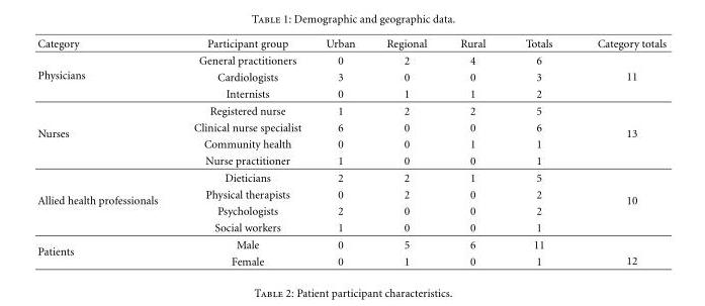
<table><thead><tr><td>Category</td><td>Participant group</td><td>Urban</td><td>Regional</td><td>Rural</td><td>Totals</td><td>Category totals</td></tr></thead><tbody><tr><td rowspan="3">Physicians</td><td>General practitioners</td><td>0</td><td>2</td><td>4</td><td>6</td><td rowspan="3">11</td></tr><tr><td>Cardiologists</td><td>3</td><td>0</td><td>0</td><td>3</td></tr><tr><td>Internists</td><td>0</td><td>1</td><td>1</td><td>2</td></tr><tr><td rowspan="4">Nurses</td><td>Registered nurse</td><td>1</td><td>2</td><td>2</td><td>5</td><td rowspan="4">13</td></tr><tr><td>Clinical nurse specialist</td><td>6</td><td>0</td><td>0</td><td>6</td></tr><tr><td>Community health</td><td>0</td><td>0</td><td>1</td><td>1</td></tr><tr><td>Nurse practitioner</td><td>1</td><td>0</td><td>0</td><td>1</td></tr><tr><td rowspan="4">Allied health professionals</td><td>Dieticians</td><td>2</td><td>2</td><td>1</td><td>5</td><td rowspan="4">10</td></tr><tr><td>Physical therapists</td><td>0</td><td>2</td><td>0</td><td>2</td></tr><tr><td>Psychologists</td><td>2</td><td>0</td><td>0</td><td>2</td></tr><tr><td>Social workers</td><td>1</td><td>0</td><td>0</td><td>1</td></tr><tr><td rowspan="2">Patients</td><td>Male</td><td>0</td><td>5</td><td>6</td><td>11</td><td rowspan="2">12</td></tr><tr><td>Female</td><td>0</td><td>1</td><td>0</td><td>1</td></tr></tbody></table>